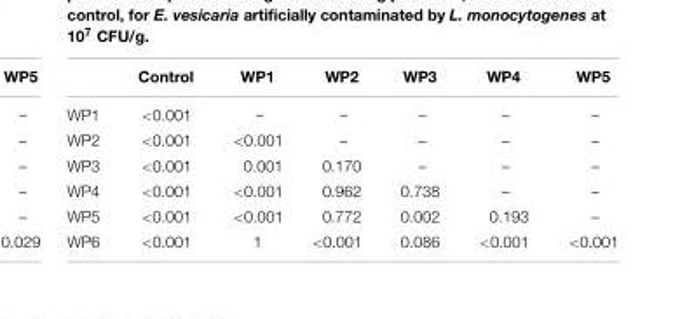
<table><thead><tr><td></td><td>Control</td><td>WP1</td><td>WP2</td><td>WP3</td><td>WP4</td><td>WP5</td></tr></thead><tbody><tr><td>WP1</td><td>&lt;0.001</td><td>–</td><td>–</td><td>–</td><td>–</td><td>–</td></tr><tr><td>WP2</td><td>&lt;0.001</td><td>&lt;0.001</td><td>–</td><td>–</td><td>–</td><td>–</td></tr><tr><td>WP3</td><td>&lt;0.001</td><td>0.001</td><td>0.170</td><td>–</td><td>–</td><td>–</td></tr><tr><td>WP4</td><td>&lt;0.001</td><td>&lt;0.001</td><td>0.962</td><td>0.738</td><td>–</td><td>–</td></tr><tr><td>WP5</td><td>&lt;0.001</td><td>&lt;0.001</td><td>0.772</td><td>0.002</td><td>0.193</td><td>–</td></tr><tr><td>WP6</td><td>&lt;0.001</td><td>1</td><td>&lt;0.001</td><td>0.086</td><td>&lt;0.001</td><td>&lt;0.001</td></tr></tbody></table>